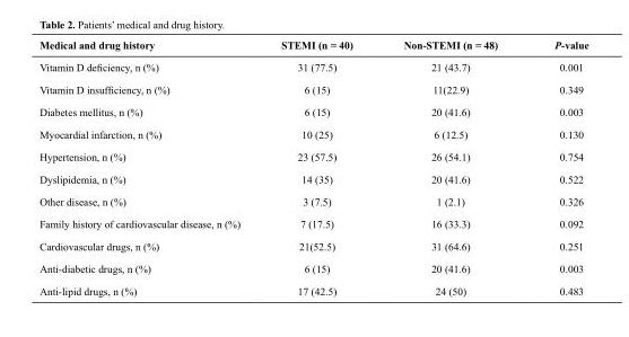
<table><thead><tr><td>Medical and drug history</td><td>STEMI (n = 40)</td><td>Non-STEMI (n = 48)</td><td>P-value</td></tr></thead><tbody><tr><td>Vitamin D deficiency, n (%) Vitamin D insufficiency, n (%)</td><td>31 (77.5) 6 (15)</td><td>21 (43.7) 11(22.9)</td><td>0.001 0.349</td></tr><tr><td>Diabetes mellitus, n (%)</td><td>6 (15)</td><td>20 (41.6)</td><td>0.003</td></tr><tr><td>Myocardial infarction, n (%)</td><td>10 (25)</td><td>6 (12.5)</td><td>0.130</td></tr><tr><td>Hypertension, n (%)</td><td>23 (57.5)</td><td>26 (54.1)</td><td>0.754</td></tr><tr><td>Dyslipidemia, n (%)</td><td>14 (35)</td><td>20 (41.6)</td><td>0.522</td></tr><tr><td>Other disease, n (%)</td><td>3 (7.5)</td><td>1 (2.1)</td><td>0.326</td></tr><tr><td>Family history of cardiovascular disease, n (%)</td><td>7 (17.5)</td><td>16 (33.3)</td><td>0.092</td></tr><tr><td>Cardiovascular drugs, n (%)</td><td>21(52.5)</td><td>31 (64.6)</td><td>0.251</td></tr><tr><td>Anti-diabetic drugs, n (%)</td><td>6 (15)</td><td>20 (41.6)</td><td>0.003</td></tr><tr><td>Anti-lipid drugs, n (%)</td><td>17 (42.5)</td><td>24 (50)</td><td>0.483</td></tr></tbody></table>